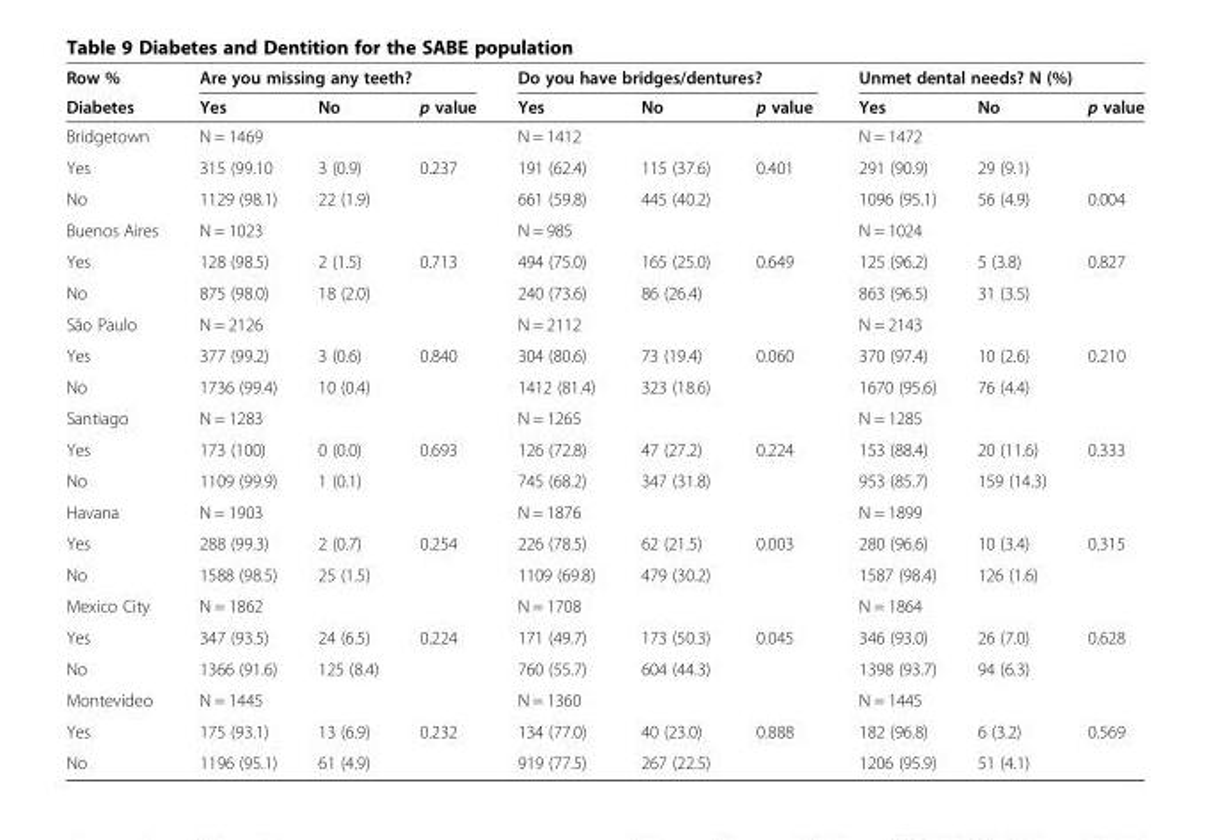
<table><thead><tr><td rowspan="2">Row % Diabetes</td><td colspan="3">Are you missing any teeth?</td><td colspan="3">Do you have bridges/dentures?</td><td colspan="3">Unmet dental needs? N (%)</td></tr><tr><td>Yes</td><td>No</td><td>p value</td><td>Yes</td><td>No</td><td>p value</td><td>Yes</td><td>No</td><td>p value</td></tr></thead><tbody><tr><td>Bridgetown</td><td colspan="2">N = 1469</td><td></td><td colspan="2">N = 1412</td><td></td><td colspan="3">N = 1472</td></tr><tr><td>Yes</td><td>315 (99.10</td><td>3 (0.9)</td><td>0.237</td><td>191 (62.4)</td><td>115 (37.6)</td><td>0.401</td><td>291 (90.9)</td><td>29 (9.1)</td><td></td></tr><tr><td>No</td><td>1129 (98.1)</td><td>22 (1.9)</td><td></td><td>661 (59.8)</td><td>445 (40.2)</td><td></td><td>1096 (95.1)</td><td>56 (4.9)</td><td>0.004</td></tr><tr><td>Buenos Aires</td><td colspan="2">N = 1023</td><td></td><td colspan="2">N = 985</td><td></td><td colspan="3">N = 1024</td></tr><tr><td>Yes</td><td>128 (98.5)</td><td>2 (1.5)</td><td>0.713</td><td>494 (75.0)</td><td>165 (25.0)</td><td>0.649</td><td>125 (96.2)</td><td>5 (3.8)</td><td>0.827</td></tr><tr><td>No</td><td>875 (98.0)</td><td>18 (2.0)</td><td></td><td>240 (73.6)</td><td>86 (26.4)</td><td></td><td>863 (96.5)</td><td>31 (3.5)</td><td></td></tr><tr><td>São Paulo</td><td colspan="2">N = 2126</td><td></td><td colspan="2">N = 2112</td><td></td><td colspan="3">N = 2143</td></tr><tr><td>Yes</td><td>377 (99.2)</td><td>3 (0.6)</td><td>0.840</td><td>304 (80.6)</td><td>73 (19.4)</td><td>0.060</td><td>370 (97.4)</td><td>10 (2.6)</td><td>0.210</td></tr><tr><td>No</td><td>1736 (99.4)</td><td>10 (0.4)</td><td></td><td>1412 (81.4)</td><td>323 (18.6)</td><td></td><td>1670 (95.6)</td><td>76 (4.4)</td><td></td></tr><tr><td>Santiago</td><td colspan="2">N = 1283</td><td></td><td colspan="2">N = 1265</td><td></td><td colspan="3">N = 1285</td></tr><tr><td>Yes</td><td>173 (100)</td><td>0 (0.0)</td><td>0.693</td><td>126 (72.8)</td><td>47 (27.2)</td><td>0.224</td><td>153 (88.4)</td><td>20 (11.6)</td><td>0.333</td></tr><tr><td>No</td><td>1109 (99.9)</td><td>1 (0.1)</td><td></td><td>745 (68.2)</td><td>347 (31.8)</td><td></td><td>953 (85.7)</td><td>159 (14.3)</td><td></td></tr><tr><td>Havana</td><td colspan="2">N = 1903</td><td></td><td colspan="2">N = 1876</td><td></td><td colspan="3">N = 1899</td></tr><tr><td>Yes</td><td>288 (99.3)</td><td>2 (0.7)</td><td>0.254</td><td>226 (78.5)</td><td>62 (21.5)</td><td>0.003</td><td>280 (96.6)</td><td>10 (3.4)</td><td>0.315</td></tr><tr><td>No</td><td>1588 (98.5)</td><td>25 (1.5)</td><td></td><td>1109 (69.8)</td><td>479 (30.2)</td><td></td><td>1587 (98.4)</td><td>126 (1.6)</td><td></td></tr><tr><td>Mexico City</td><td colspan="2">N = 1862</td><td></td><td colspan="2">N = 1708</td><td></td><td colspan="3">N = 1864</td></tr><tr><td>Yes</td><td>347 (93.5)</td><td>24 (6.5)</td><td>0.224</td><td>171 (49.7)</td><td>173 (50.3)</td><td>0.045</td><td>346 (93.0)</td><td>26 (7.0)</td><td>0.628</td></tr><tr><td>No</td><td>1366 (91.6)</td><td>125 (8.4)</td><td></td><td>760 (55.7)</td><td>604 (44.3)</td><td></td><td>1398 (93.7)</td><td>94 (6.3)</td><td></td></tr><tr><td>Montevideo</td><td colspan="2">N = 1445</td><td></td><td colspan="2">N = 1360</td><td></td><td colspan="3">N = 1445</td></tr><tr><td>Yes</td><td>175 (93.1)</td><td>13 (6.9)</td><td>0.232</td><td>134 (77.0)</td><td>40 (23.0)</td><td>0.888</td><td>182 (96.8)</td><td>6 (3.2)</td><td>0.569</td></tr><tr><td>No</td><td>1196 (95.1)</td><td>61 (4.9)</td><td></td><td>919 (77.5)</td><td>267 (22.5)</td><td></td><td>1206 (95.9)</td><td>51 (4.1)</td><td></td></tr></tbody></table>